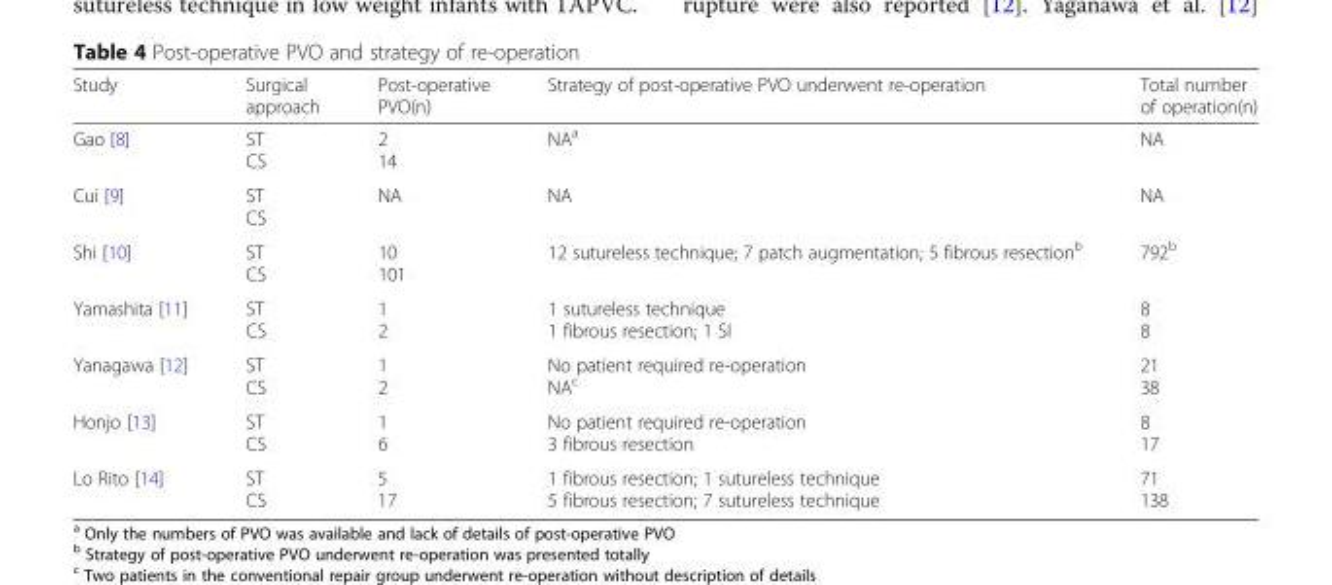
<table><thead><tr><td>Study</td><td>Surgical approach</td><td>Post-operative PVO(n)</td><td>Strategy of post-operative PVO underwent re-operation</td><td>Total number of operation(n)</td></tr></thead><tbody><tr><td>Gao [8]</td><td>ST CS</td><td>2 14</td><td>NA<sup>a</sup></td><td>NA</td></tr><tr><td>Cui [9]</td><td>ST CS</td><td>NA</td><td>NA</td><td>NA</td></tr><tr><td>Shi [10]</td><td>ST CS</td><td>10 101</td><td>12 sutureless technique; 7 patch augmentation; 5 fibrous resection<sup>b</sup></td><td>792<sup>b</sup></td></tr><tr><td>Yamashita [11]</td><td>ST CS</td><td>1 2</td><td>1 sutureless technique 1 fibrous resection; 1 SI</td><td>8 8</td></tr><tr><td>Yanagawa [12]</td><td>ST CS</td><td>1 2</td><td>No patient required re-operation NA<sup>c</sup></td><td>21 38</td></tr><tr><td>Honjo [13]</td><td>ST CS</td><td>1 6</td><td>No patient required re-operation 3 fibrous resection</td><td>8 17</td></tr><tr><td>Lo Rito [14]</td><td>ST CS</td><td>5 17</td><td>1 fibrous resection; 1 sutureless technique 5 fibrous resection; 7 sutureless technique</td><td>71 138</td></tr></tbody></table>